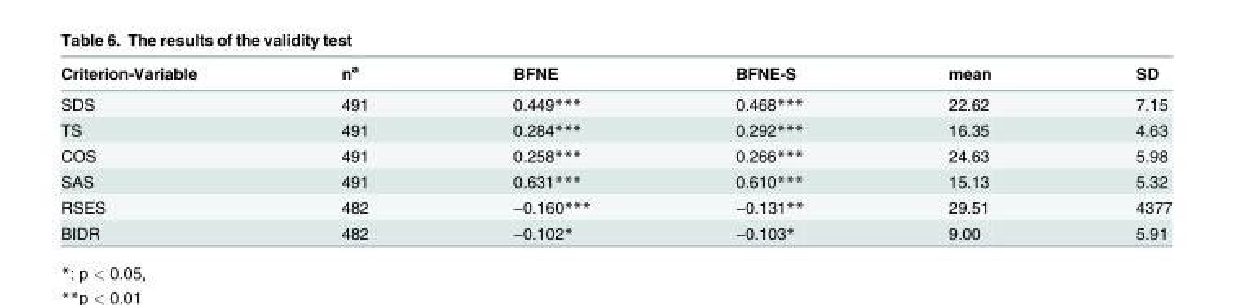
<table><thead><tr><td>Criterion-Variable</td><td>n<sup>a</sup></td><td>BFNE</td><td>BFNE-S</td><td>mean</td><td>SD</td></tr></thead><tbody><tr><td>SDS</td><td>491</td><td>0.449***</td><td>0.468***</td><td>22.62</td><td>7.15</td></tr><tr><td>TS</td><td>491</td><td>0.284***</td><td>0.292***</td><td>16.35</td><td>4.63</td></tr><tr><td>COS</td><td>491</td><td>0.258***</td><td>0.266***</td><td>24.63</td><td>5.98</td></tr><tr><td>SAS</td><td>491</td><td>0.631***</td><td>0.610***</td><td>15.13</td><td>5.32</td></tr><tr><td>RSES</td><td>482</td><td>−0.160***</td><td>−0.131**</td><td>29.51</td><td>4377</td></tr><tr><td>BIDR</td><td>482</td><td>−0.102*</td><td>−0.103*</td><td>9.00</td><td>5.91</td></tr></tbody></table>